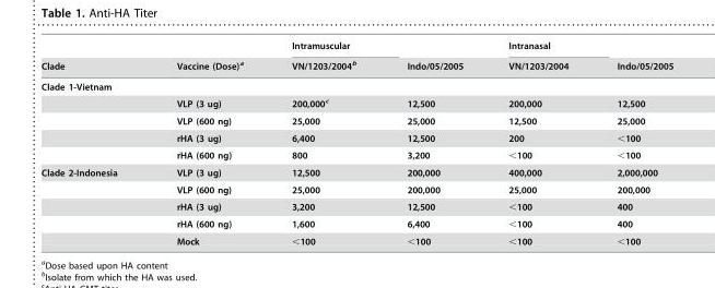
<table><thead><tr><td rowspan="2">Clade</td><td rowspan="2">Vaccine (Dose)<sup>a</sup></td><td rowspan="2">Intramuscular VN/1203/2004<sup>b</sup></td><td rowspan="2">Indo/05/2005</td><td rowspan="2">Intranasal VN/1203/2004</td><td rowspan="2">Indo/05/2005</td></tr><tr></tr></thead><tbody><tr><td colspan="6">Clade 1-Vietnam</td></tr><tr><td></td><td>VLP (3 ug)</td><td>200,000c</td><td>12,500</td><td>200,000</td><td>12,500</td></tr><tr><td></td><td>VLP (600 ng)</td><td>25,000</td><td>25,000</td><td>12,500</td><td>25,000</td></tr><tr><td></td><td>rHA (3 ug)</td><td>6,400</td><td>12,500</td><td>200</td><td>&lt;100</td></tr><tr><td></td><td>rHA (600 ng)</td><td>800</td><td>3,200</td><td>&lt;100</td><td>&lt;100</td></tr><tr><td rowspan="5">Clade 2-Indonesia</td><td>VLP (3 ug)</td><td>12,500</td><td>200,000</td><td>400,000</td><td>2,000,000</td></tr><tr><td>VLP (600 ng)</td><td>25,000</td><td>200,000</td><td>25,000</td><td>200,000</td></tr><tr><td>rHA (3 ug)</td><td>3,200</td><td>12,500</td><td>&lt;100</td><td>400</td></tr><tr><td>rHA (600 ng)</td><td>1,600</td><td>6,400</td><td>&lt;100</td><td>400</td></tr><tr><td>Mock</td><td>&lt;100</td><td>&lt;100</td><td>&lt;100</td><td>&lt;100</td></tr></tbody></table>